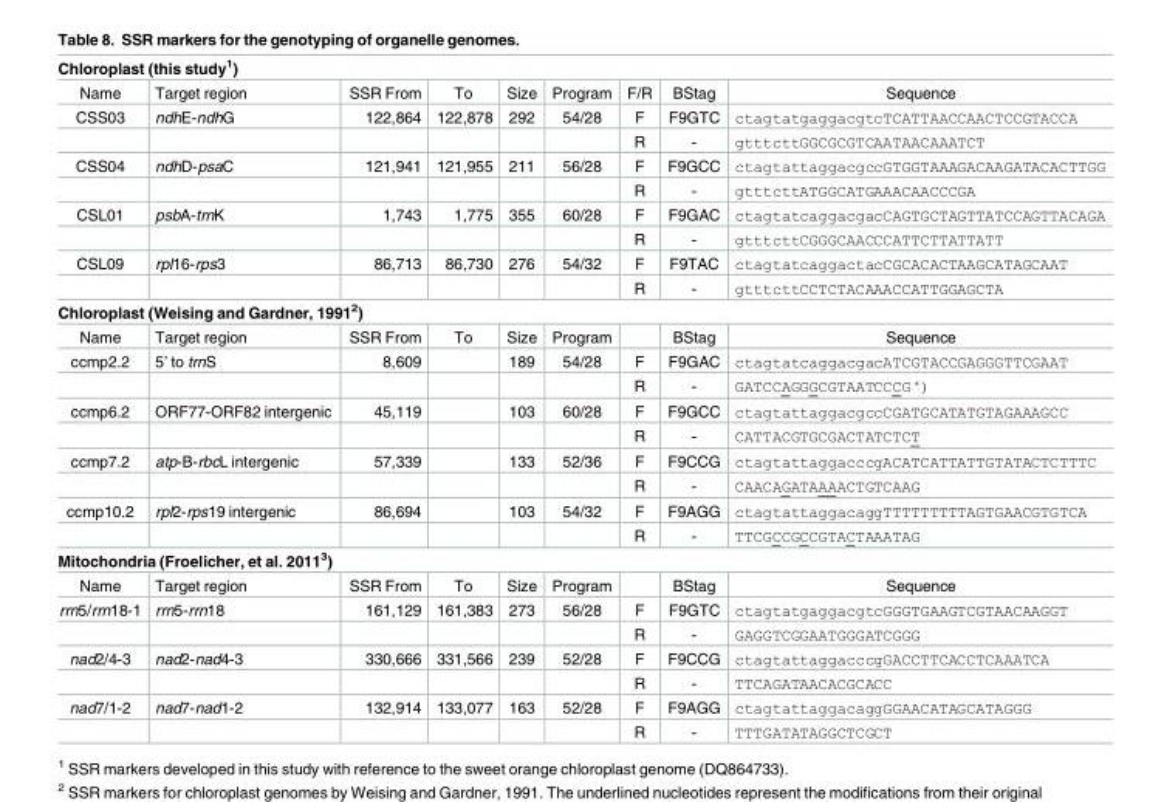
<table><tbody><tr><td colspan="9">Chloroplast (this study<sup>1</sup>)</td></tr><tr><td>Name</td><td>Target region</td><td>SSR From</td><td>To</td><td>Size</td><td>Program</td><td>F/R</td><td>BStag</td><td>Sequence</td></tr><tr><td rowspan="2">CSS03</td><td>ndhE-ndhG</td><td>122,864</td><td>122,878</td><td>292</td><td>54/28</td><td>F</td><td>F9GTC</td><td>ctagtatgaggacgtcTCATTAACCAACTCCGTACCA</td></tr><tr><td></td><td></td><td></td><td></td><td></td><td>R</td><td>-</td><td>gtttcttGGCGCGTCAATAACAAATCT</td></tr><tr><td rowspan="2">CSS04</td><td>ndhD-psaC</td><td>121,941</td><td>121,955</td><td>211</td><td>56/28</td><td>F</td><td>F9GCC</td><td>ctagtattaggacgccGTGGTAAAGACAAGATACACTTGG</td></tr><tr><td></td><td></td><td></td><td></td><td></td><td>R</td><td>-</td><td>gtttcttATGGCATGAAACAACCCGA</td></tr><tr><td rowspan="2">CSL01</td><td>psbA-trnK</td><td>1,743</td><td>1,775</td><td>355</td><td>60/28</td><td>F</td><td>F9GAC</td><td>ctagtatcaggacgacCAGTGCTAGTTATCCAGTTACAGA</td></tr><tr><td></td><td></td><td></td><td></td><td></td><td>R</td><td>-</td><td>gtttcttCGGGCAACCCATTCTTATTATT</td></tr><tr><td rowspan="2">CSL09</td><td>rpl16-rps3</td><td>86,713</td><td>86,730</td><td>276</td><td>54/32</td><td>F</td><td>F9TAC</td><td>ctagtatcaggactacCGCACACTAAGCATAGCAAT</td></tr><tr><td></td><td></td><td></td><td></td><td></td><td>R</td><td>-</td><td>gtttcttCCTCTACAAACCATTGGAGCTA</td></tr><tr><td colspan="9">Chloroplast (Weising and Gardner, 1991<sup>2</sup>)</td></tr><tr><td>Name</td><td>Target region</td><td>SSR From</td><td>To</td><td>Size</td><td>Program</td><td></td><td>BStag</td><td>Sequence</td></tr><tr><td rowspan="2">ccmp2.2</td><td>5’ to trnS</td><td>8,609</td><td></td><td>189</td><td>54/28</td><td>F</td><td>F9GAC</td><td>ctagtatcaggacgacATCGTACCGAGGGTTCGAAT</td></tr><tr><td></td><td></td><td></td><td></td><td></td><td>R</td><td>-</td><td>GATCCAGGGCGTAATCCCG *)</td></tr><tr><td rowspan="2">ccmp6.2</td><td>ORF77-ORF82 intergenic</td><td>45,119</td><td></td><td>103</td><td>60/28</td><td>F</td><td>F9GCC</td><td>ctagtattaggacgccCGATGCATATGTAGAAAGCC</td></tr><tr><td></td><td></td><td></td><td></td><td></td><td>R</td><td>-</td><td>CATTACGTGCGACTATCTCT</td></tr><tr><td rowspan="2">ccmp7.2</td><td>atp-B-rbcL intergenic</td><td>57,339</td><td></td><td>133</td><td>52/36</td><td>F</td><td>F9CCG</td><td>ctagtattaggacccgACATCATTATTGTATACTCTTTC</td></tr><tr><td></td><td></td><td></td><td></td><td></td><td>R</td><td>-</td><td>CAACAGATAAAACTGTCAAG</td></tr><tr><td rowspan="2">ccmp10.2</td><td>rpl2-rps19 intergenic</td><td>86,694</td><td></td><td>103</td><td>54/32</td><td>F</td><td>F9AGG</td><td>ctagtattaggacaggTTTTTTTTTAGTGAACGTGTCA</td></tr><tr><td></td><td></td><td></td><td></td><td></td><td>R</td><td>-</td><td>TTCGCCGCCGTACTAAATAG</td></tr><tr><td colspan="9">Mitochondria (Froelicher, et al. 2011<sup>3</sup>)</td></tr><tr><td>Name</td><td>Target region</td><td>SSR From</td><td>To</td><td>Size</td><td>Program</td><td></td><td>BStag</td><td>Sequence</td></tr><tr><td rowspan="2">rrn5/rrn18-1</td><td>rrn5-rrn18</td><td>161,129</td><td>161,383</td><td>273</td><td>56/28</td><td>F</td><td>F9GTC</td><td>ctagtatgaggacgtcGGGTGAAGTCGTAACAAGGT</td></tr><tr><td></td><td></td><td></td><td></td><td></td><td>R</td><td>-</td><td>GAGGTCGGAATGGGATCGGG</td></tr><tr><td rowspan="2">nad2/4-3</td><td>nad2-nad4-3</td><td>330,666</td><td>331,566</td><td>239</td><td>52/28</td><td>F</td><td>F9CCG</td><td>ctagtattaggacccgGACCTTCACCTCAAATCA</td></tr><tr><td></td><td></td><td></td><td></td><td></td><td>R</td><td>-</td><td>TTCAGATAACACGCACC</td></tr><tr><td rowspan="2">nad7/1-2</td><td>nad7-nad1-2</td><td>132,914</td><td>133,077</td><td>163</td><td>52/28</td><td>F</td><td>F9AGG</td><td>ctagtattaggacaggGGAACATAGCATAGGG</td></tr><tr><td></td><td></td><td></td><td></td><td></td><td>R</td><td>-</td><td>TTTGATATAGGCTCGCT</td></tr></tbody></table>